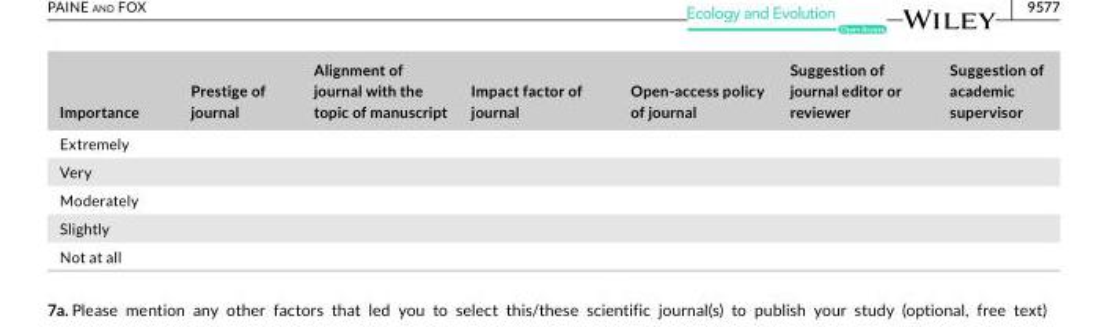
<table><thead><tr><td>Importance</td><td>Prestige of journal</td><td>Alignment of journal with the topic of manuscript</td><td>Impact factor of journal</td><td>Open- access policy of journal</td><td>Suggestion of journal editor or reviewer</td><td>Suggestion of academic supervisor</td></tr></thead><tbody><tr><td colspan="7">Extremely</td></tr><tr><td colspan="7">Very</td></tr><tr><td colspan="7">Moderately</td></tr><tr><td colspan="7">Slightly</td></tr><tr><td>Not at all</td><td></td><td></td><td></td><td></td><td></td><td></td></tr></tbody></table>